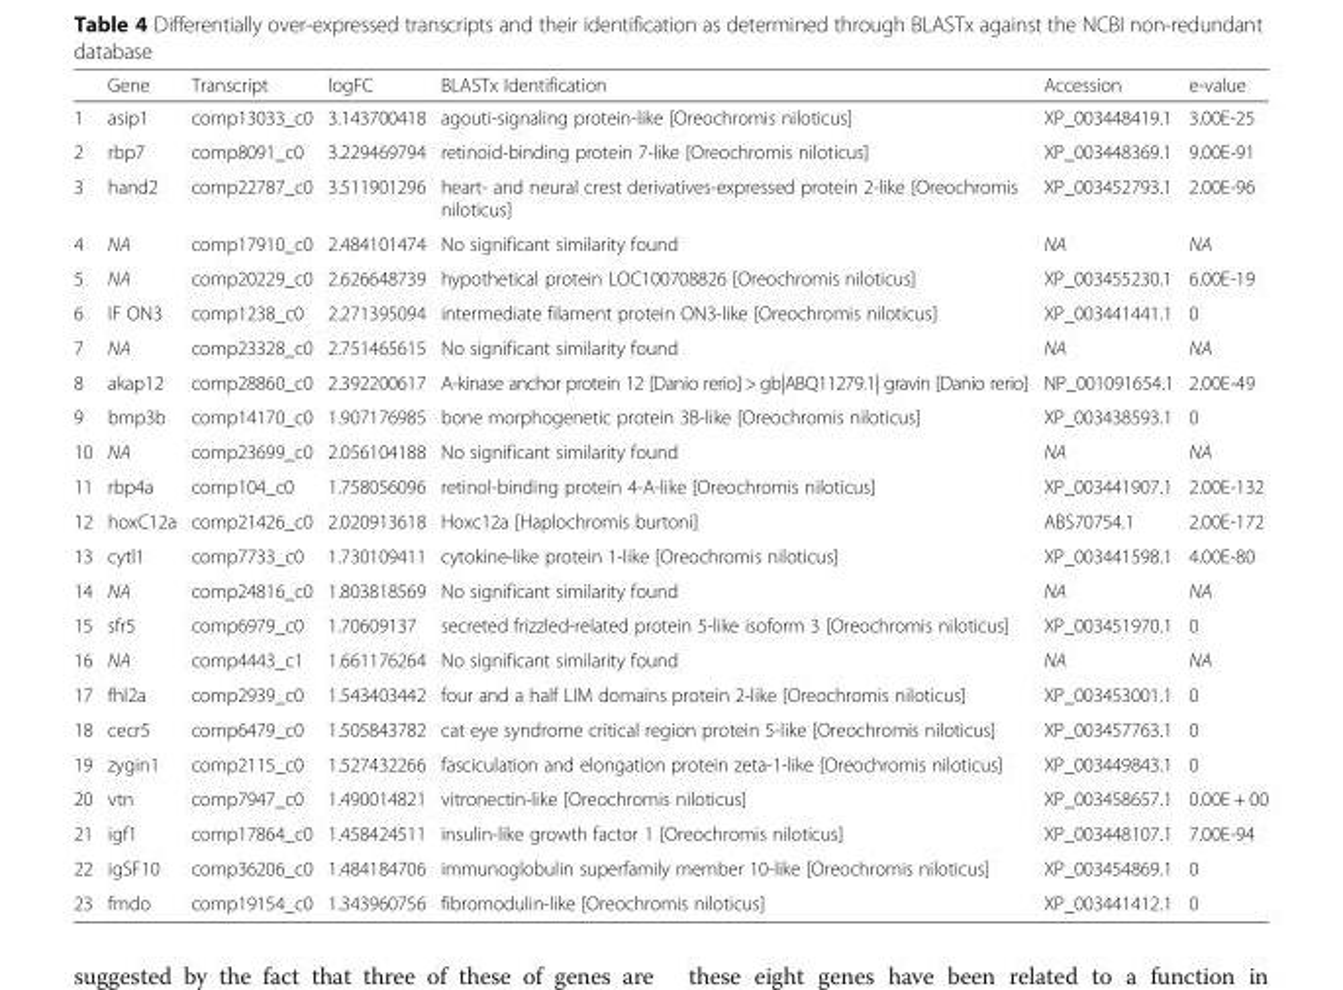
<table><thead><tr><td></td><td>Gene</td><td>Transcript</td><td>logFC</td><td>BLASTx Identification</td><td>Accession</td><td>e-value</td></tr></thead><tbody><tr><td>1</td><td>asip1</td><td>comp13033_c0</td><td>3.143700418</td><td>agouti-signaling protein-like [Oreochromis niloticus]</td><td>XP_003448419.1</td><td>3.00E-25</td></tr><tr><td>2</td><td>rbp7</td><td>comp8091_c0</td><td>3.229469794</td><td>retinoid-binding protein 7-like [Oreochromis niloticus]</td><td>XP_003448369.1</td><td>9.00E-91</td></tr><tr><td>3</td><td>hand2</td><td>comp22787_c0</td><td>3.511901296</td><td>heart- and neural crest derivatives-expressed protein 2-like [Oreochromis niloticus]</td><td>XP_003452793.1</td><td>2.00E-96</td></tr><tr><td>4</td><td>NA</td><td>comp17910_c0</td><td>2.484101474</td><td>No significant similarity found</td><td>NA</td><td>NA</td></tr><tr><td>5</td><td>NA</td><td>comp20229_c0</td><td>2.626648739</td><td>hypothetical protein LOC100708826 [Oreochromis niloticus]</td><td>XP_003455230.1</td><td>6.00E-19</td></tr><tr><td>6</td><td>IF ON3</td><td>comp1238_c0</td><td>2.271395094</td><td>intermediate filament protein ON3-like [Oreochromis niloticus]</td><td>XP_003441441.1</td><td>0</td></tr><tr><td>7</td><td>NA</td><td>comp23328_c0</td><td>2.751465615</td><td>No significant similarity found</td><td>NA</td><td>NA</td></tr><tr><td>8</td><td>akap12</td><td>comp28860_c0</td><td>2.392200617</td><td>A-kinase anchor protein 12 [Danio rerio] &gt; gb|ABQ11279.1| gravin [Danio rerio]</td><td>NP_001091654.1</td><td>2.00E-49</td></tr><tr><td>9</td><td>bmp3b</td><td>comp14170_c0</td><td>1.907176985</td><td>bone morphogenetic protein 3B-like [Oreochromis niloticus]</td><td>XP_003438593.1</td><td>0</td></tr><tr><td>10</td><td>NA</td><td>comp23699_c0</td><td>2.056104188</td><td>No significant similarity found</td><td>NA</td><td>NA</td></tr><tr><td>11</td><td>rbp4a</td><td>comp104_c0</td><td>1.758056096</td><td>retinol-binding protein 4-A-like [Oreochromis niloticus]</td><td>XP_003441907.1</td><td>2.00E-132</td></tr><tr><td>12</td><td>hoxC12a</td><td>comp21426_c0</td><td>2.020913618</td><td>Hoxc12a [Haplochromis burtoni]</td><td>ABS70754.1</td><td>2.00E-172</td></tr><tr><td>13</td><td>cytl1</td><td>comp7733_c0</td><td>1.730109411</td><td>cytokine-like protein 1-like [Oreochromis niloticus]</td><td>XP_003441598.1</td><td>4.00E-80</td></tr><tr><td>14</td><td>NA</td><td>comp24816_c0</td><td>1.803818569</td><td>No significant similarity found</td><td>NA</td><td>NA</td></tr><tr><td>15</td><td>sfr5</td><td>comp6979_c0</td><td>1.70609137</td><td>secreted frizzled-related protein 5-like isoform 3 [Oreochromis niloticus]</td><td>XP_003451970.1</td><td>0</td></tr><tr><td>16</td><td>NA</td><td>comp4443_c1</td><td>1.661176264</td><td>No significant similarity found</td><td>NA</td><td>NA</td></tr><tr><td>17</td><td>fhl2a</td><td>comp2939_c0</td><td>1.543403442</td><td>four and a half LIM domains protein 2-like [Oreochromis niloticus]</td><td>XP_003453001.1</td><td>0</td></tr><tr><td>18</td><td>cecr5</td><td>comp6479_c0</td><td>1.505843782</td><td>cat eye syndrome critical region protein 5-like [Oreochromis niloticus]</td><td>XP_003457763.1</td><td>0</td></tr><tr><td>19</td><td>zygin1</td><td>comp2115_c0</td><td>1.527432266</td><td>fasciculation and elongation protein zeta-1-like [Oreochromis niloticus]</td><td>XP_003449843.1</td><td>0</td></tr><tr><td>20</td><td>vtn</td><td>comp7947_c0</td><td>1.490014821</td><td>vitronectin-like [Oreochromis niloticus]</td><td>XP_003458657.1</td><td>0.00E + 00</td></tr><tr><td>21</td><td>igf1</td><td>comp17864_c0</td><td>1.458424511</td><td>insulin-like growth factor 1 [Oreochromis niloticus]</td><td>XP_003448107.1</td><td>7.00E-94</td></tr><tr><td>22</td><td>igSF10</td><td>comp36206_c0</td><td>1.484184706</td><td>immunoglobulin superfamily member 10-like [Oreochromis niloticus]</td><td>XP_003454869.1</td><td>0</td></tr><tr><td>23</td><td>fmdo</td><td>comp19154_c0</td><td>1.343960756</td><td>fibromodulin-like [Oreochromis niloticus]</td><td>XP_003441412.1</td><td>0</td></tr></tbody></table>